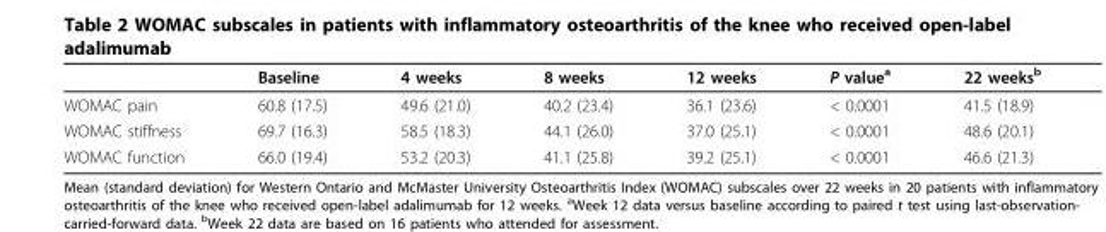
<table><thead><tr><td></td><td>Baseline</td><td>4 weeks</td><td>8 weeks</td><td>12 weeks</td><td>P value<sup>a</sup></td><td>22 weeks<sup>b</sup></td></tr></thead><tbody><tr><td>WOMAC pain</td><td>60.8 (17.5)</td><td>49.6 (21.0)</td><td>40.2 (23.4)</td><td>36.1 (23.6)</td><td>&lt; 0.0001</td><td>41.5 (18.9)</td></tr><tr><td>WOMAC stiffness</td><td>69.7 (16.3)</td><td>58.5 (18.3)</td><td>44.1 (26.0)</td><td>37.0 (25.1)</td><td>&lt; 0.0001</td><td>48.6 (20.1)</td></tr><tr><td>WOMAC function</td><td>66.0 (19.4)</td><td>53.2 (20.3)</td><td>41.1 (25.8)</td><td>39.2 (25.1)</td><td>&lt; 0.0001</td><td>46.6 (21.3)</td></tr></tbody></table>